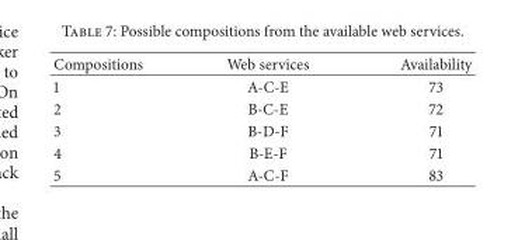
<table><thead><tr><td>Compositions</td><td>Web services</td><td>Availability</td></tr></thead><tbody><tr><td>1</td><td>A-C-E</td><td>73</td></tr><tr><td>2</td><td>B-C-E</td><td>72</td></tr><tr><td>3</td><td>B-D-F</td><td>71</td></tr><tr><td>4</td><td>B-E-F</td><td>71</td></tr><tr><td>5</td><td>A-C-F</td><td>83</td></tr></tbody></table>